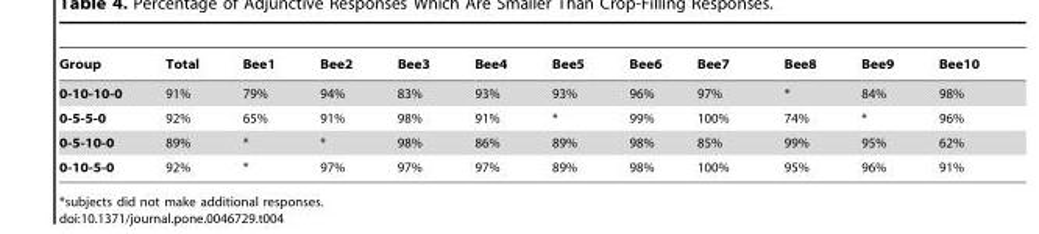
<table><thead><tr><td>Group</td><td>Total</td><td>Bee1</td><td>Bee2</td><td>Bee3</td><td>Bee4</td><td>Bee5</td><td>Bee6</td><td>Bee7</td><td>Bee8</td><td>Bee9</td><td>Bee10</td></tr></thead><tbody><tr><td>0-10-10-0</td><td>91%</td><td>79%</td><td>94%</td><td>83%</td><td>93%</td><td>93%</td><td>96%</td><td>97%</td><td>*</td><td>84%</td><td>98%</td></tr><tr><td>0-5-5-0</td><td>92%</td><td>65%</td><td>91%</td><td>98%</td><td>91%</td><td>*</td><td>99%</td><td>100%</td><td>74%</td><td>*</td><td>96%</td></tr><tr><td>0-5-10-0</td><td>89%</td><td>*</td><td>*</td><td>98%</td><td>86%</td><td>89%</td><td>98%</td><td>85%</td><td>99%</td><td>95%</td><td>62%</td></tr><tr><td>0-10-5-0</td><td>92%</td><td>*</td><td>97%</td><td>97%</td><td>97%</td><td>89%</td><td>98%</td><td>100%</td><td>95%</td><td>96%</td><td>91%</td></tr></tbody></table>